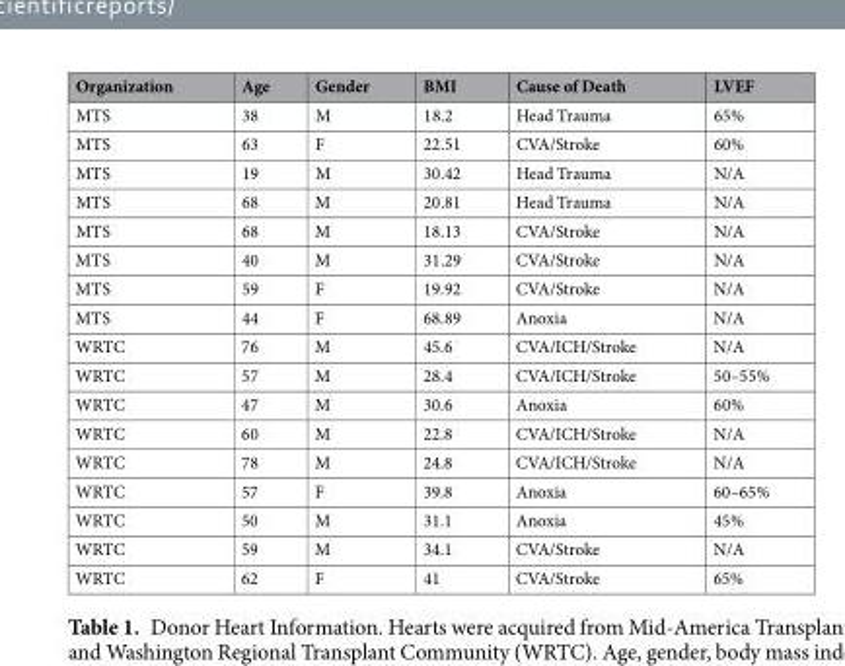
<table><thead><tr><td>Organization</td><td>Age</td><td>Gender</td><td>BMI</td><td>Cause of Death</td><td>LVEF</td></tr></thead><tbody><tr><td>MTS</td><td>38</td><td>M</td><td>18.2</td><td>Head Trauma</td><td>65%</td></tr><tr><td>MTS</td><td>63</td><td>F</td><td>22.51</td><td>CVA/Stroke</td><td>60%</td></tr><tr><td>MTS</td><td>19</td><td>M</td><td>30.42</td><td>Head Trauma</td><td>N/A</td></tr><tr><td>MTS</td><td>68</td><td>M</td><td>20.81</td><td>Head Trauma</td><td>N/A</td></tr><tr><td>MTS</td><td>68</td><td>M</td><td>18.13</td><td>CVA/Stroke</td><td>N/A</td></tr><tr><td>MTS</td><td>40</td><td>M</td><td>31.29</td><td>CVA/Stroke</td><td>N/A</td></tr><tr><td>MTS</td><td>59</td><td>F</td><td>19.92</td><td>CVA/Stroke</td><td>N/A</td></tr><tr><td>MTS</td><td>44</td><td>F</td><td>68.89</td><td>Anoxia</td><td>N/A</td></tr><tr><td>WRTC</td><td>76</td><td>M</td><td>45.6</td><td>CVA/ICH/Stroke</td><td>N/A</td></tr><tr><td>WRTC</td><td>57</td><td>M</td><td>28.4</td><td>CVA/ICH/Stroke</td><td>50–55%</td></tr><tr><td>WRTC</td><td>47</td><td>M</td><td>30.6</td><td>Anoxia</td><td>60%</td></tr><tr><td>WRTC</td><td>60</td><td>M</td><td>22.8</td><td>CVA/ICH/Stroke</td><td>N/A</td></tr><tr><td>WRTC</td><td>78</td><td>M</td><td>24.8</td><td>CVA/ICH/Stroke</td><td>N/A</td></tr><tr><td>WRTC</td><td>57</td><td>F</td><td>39.8</td><td>Anoxia</td><td>60–65%</td></tr><tr><td>WRTC</td><td>50</td><td>M</td><td>31.1</td><td>Anoxia</td><td>45%</td></tr><tr><td>WRTC</td><td>59</td><td>M</td><td>34.1</td><td>CVA/Stroke</td><td>N/A</td></tr><tr><td>WRTC</td><td>62</td><td>F</td><td>41</td><td>CVA/Stroke</td><td>65%</td></tr></tbody></table>